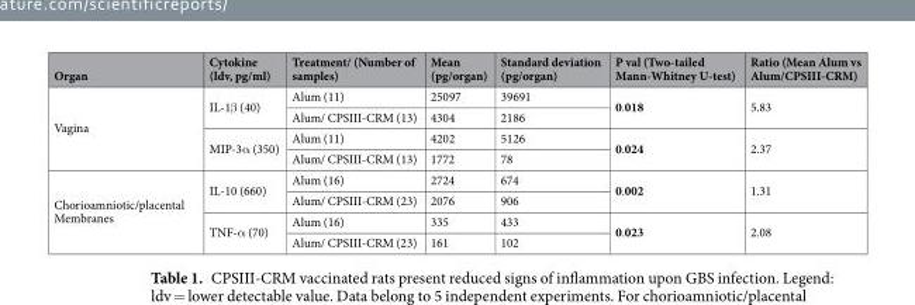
<table><thead><tr><td>Organ</td><td>Cytokine (ldv, pg/ml)</td><td>Treatment/ (Number of samples)</td><td>Mean (pg/organ)</td><td>Standard deviation (pg/organ)</td><td>P val (Two-tailed Mann-Whitney U-test)</td><td>Ratio (Mean Alum vs Alum/CPSIII-CRM)</td></tr></thead><tbody><tr><td rowspan="4">Vagina</td><td rowspan="2">IL-1β (40)</td><td>Alum (11)</td><td>25097</td><td>39691</td><td rowspan="2">0.018</td><td rowspan="2">5.83</td></tr><tr><td>Alum/ CPSIII-CRM (13)</td><td>4304</td><td>2186</td></tr><tr><td rowspan="2">MIP-3α (350)</td><td>Alum (11)</td><td>4202</td><td>5126</td><td rowspan="2">0.024</td><td rowspan="2">2.37</td></tr><tr><td>Alum/ CPSIII-CRM (13)</td><td>1772</td><td>78</td></tr><tr><td rowspan="4">Chorioamniotic/placental Membranes</td><td rowspan="2">IL-10 (660)</td><td>Alum (16)</td><td>2724</td><td>674</td><td rowspan="2">0.002</td><td rowspan="2">1.31</td></tr><tr><td>Alum/ CPSIII-CRM (23)</td><td>2076</td><td>906</td></tr><tr><td rowspan="2">TNF-α (70)</td><td>Alum (16)</td><td>335</td><td>433</td><td rowspan="2">0.023</td><td rowspan="2">2.08</td></tr><tr><td>Alum/ CPSIII-CRM (23)</td><td>161</td><td>102</td></tr></tbody></table>